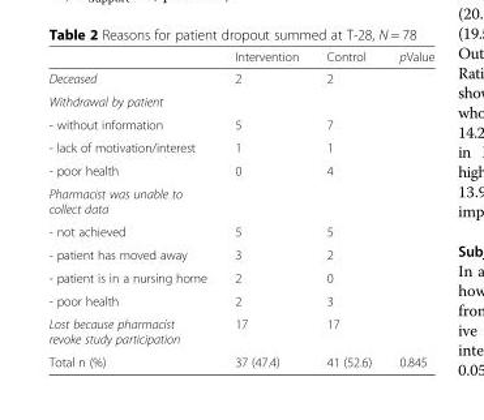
<table><thead><tr><td></td><td>Intervention</td><td>Control</td><td>pValue</td></tr></thead><tbody><tr><td>Deceased</td><td>2</td><td>2</td><td></td></tr><tr><td colspan="4">Withdrawal by patient</td></tr><tr><td>- without information</td><td>5</td><td>7</td><td></td></tr><tr><td>- lack of motivation/interest</td><td>1</td><td>1</td><td></td></tr><tr><td>- poor health</td><td>0</td><td>4</td><td></td></tr><tr><td colspan="4">Pharmacist was unable to collect data</td></tr><tr><td>- not achieved</td><td>5</td><td>5</td><td></td></tr><tr><td>- patient has moved away</td><td>3</td><td>2</td><td></td></tr><tr><td>- patient is in a nursing home</td><td>2</td><td>0</td><td></td></tr><tr><td>- poor health</td><td>2</td><td>3</td><td></td></tr><tr><td>Lost because pharmacist revoke study participation</td><td>17</td><td>17</td><td></td></tr><tr><td>Total n (%)</td><td>37 (47.4)</td><td>41 (52.6)</td><td>0.845</td></tr></tbody></table>